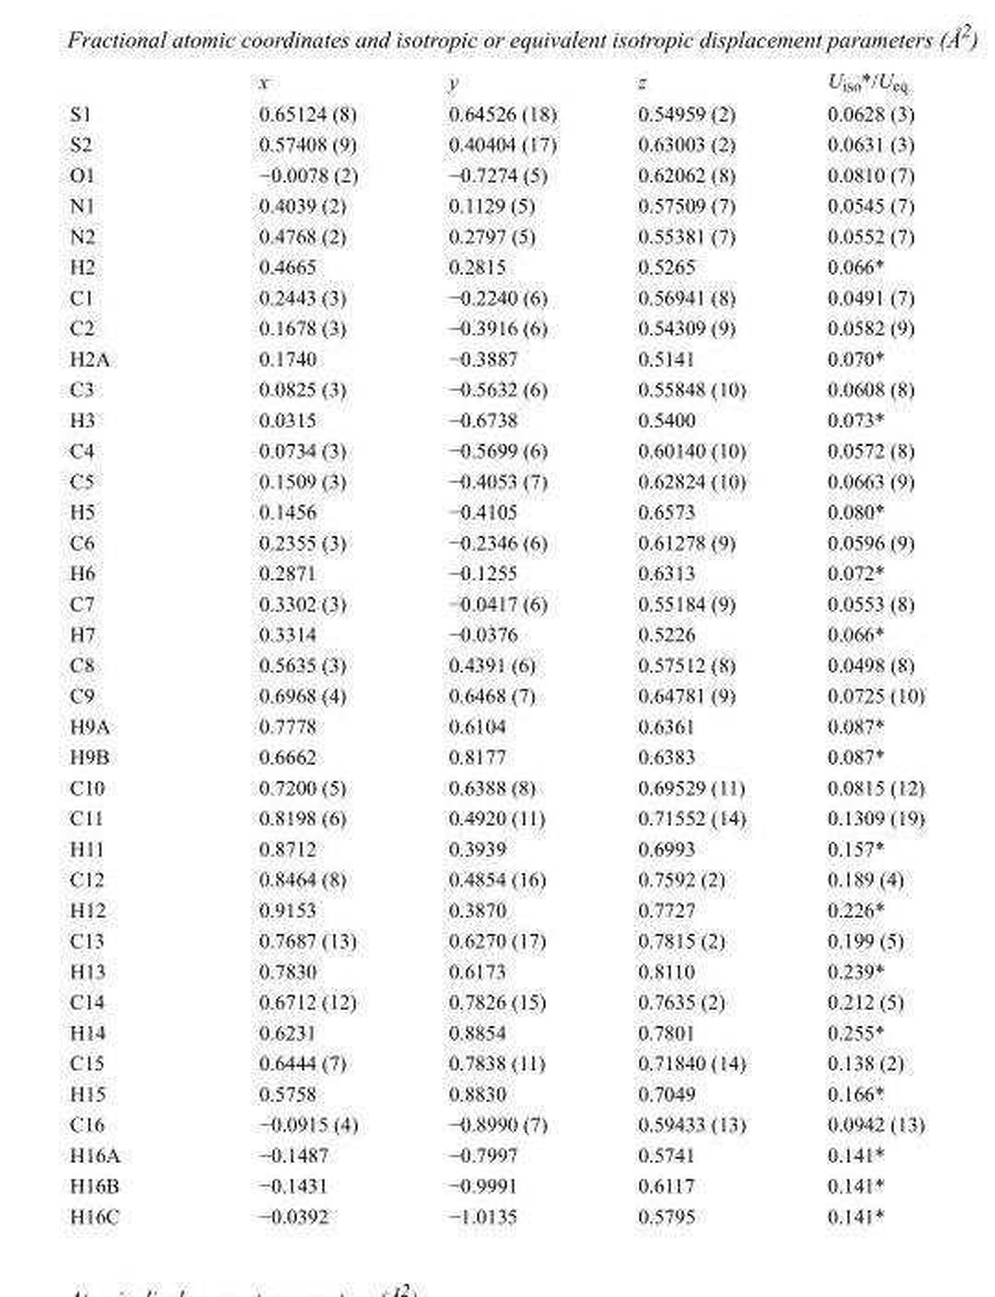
<table><thead><tr><td></td><td>x</td><td>y</td><td>z</td><td>U<sub>iso</sub>*/U<sub>eq</sub></td></tr></thead><tbody><tr><td>S1</td><td>0.65124 (8)</td><td>0.64526 (18)</td><td>0.54959 (2)</td><td>0.0628 (3)</td></tr><tr><td>S2</td><td>0.57408 (9)</td><td>0.40404 (17)</td><td>0.63003 (2)</td><td>0.0631 (3)</td></tr><tr><td>O1</td><td>−0.0078 (2)</td><td>−0.7274 (5)</td><td>0.62062 (8)</td><td>0.0810 (7)</td></tr><tr><td>N1</td><td>0.4039 (2)</td><td>0.1129 (5)</td><td>0.57509 (7)</td><td>0.0545 (7)</td></tr><tr><td>N2</td><td>0.4768 (2)</td><td>0.2797 (5)</td><td>0.55381 (7)</td><td>0.0552 (7)</td></tr><tr><td>H2</td><td>0.4665</td><td>0.2815</td><td>0.5265</td><td>0.066*</td></tr><tr><td>C1</td><td>0.2443 (3)</td><td>−0.2240 (6)</td><td>0.56941 (8)</td><td>0.0491 (7)</td></tr><tr><td>C2</td><td>0.1678 (3)</td><td>−0.3916 (6)</td><td>0.54309 (9)</td><td>0.0582 (9)</td></tr><tr><td>H2A</td><td>0.1740</td><td>−0.3887</td><td>0.5141</td><td>0.070*</td></tr><tr><td>C3</td><td>0.0825 (3)</td><td>−0.5632 (6)</td><td>0.55848 (10)</td><td>0.0608 (8)</td></tr><tr><td>H3</td><td>0.0315</td><td>−0.6738</td><td>0.5400</td><td>0.073*</td></tr><tr><td>C4</td><td>0.0734 (3)</td><td>−0.5699 (6)</td><td>0.60140 (10)</td><td>0.0572 (8)</td></tr><tr><td>C5</td><td>0.1509 (3)</td><td>−0.4053 (7)</td><td>0.62824 (10)</td><td>0.0663 (9)</td></tr><tr><td>H5</td><td>0.1456</td><td>−0.4105</td><td>0.6573</td><td>0.080*</td></tr><tr><td>C6</td><td>0.2355 (3)</td><td>−0.2346 (6)</td><td>0.61278 (9)</td><td>0.0596 (9)</td></tr><tr><td>H6</td><td>0.2871</td><td>−0.1255</td><td>0.6313</td><td>0.072*</td></tr><tr><td>C7</td><td>0.3302 (3)</td><td>−0.0417 (6)</td><td>0.55184 (9)</td><td>0.0553 (8)</td></tr><tr><td>H7</td><td>0.3314</td><td>−0.0376</td><td>0.5226</td><td>0.066*</td></tr><tr><td>C8</td><td>0.5635 (3)</td><td>0.4391 (6)</td><td>0.57512 (8)</td><td>0.0498 (8)</td></tr><tr><td>C9</td><td>0.6968 (4)</td><td>0.6468 (7)</td><td>0.64781 (9)</td><td>0.0725 (10)</td></tr><tr><td>H9A</td><td>0.7778</td><td>0.6104</td><td>0.6361</td><td>0.087*</td></tr><tr><td>H9B</td><td>0.6662</td><td>0.8177</td><td>0.6383</td><td>0.087*</td></tr><tr><td>C10</td><td>0.7200 (5)</td><td>0.6388 (8)</td><td>0.69529 (11)</td><td>0.0815 (12)</td></tr><tr><td>C11</td><td>0.8198 (6)</td><td>0.4920 (11)</td><td>0.71552 (14)</td><td>0.1309 (19)</td></tr><tr><td>H11</td><td>0.8712</td><td>0.3939</td><td>0.6993</td><td>0.157*</td></tr><tr><td>C12</td><td>0.8464 (8)</td><td>0.4854 (16)</td><td>0.7592 (2)</td><td>0.189 (4)</td></tr><tr><td>H12</td><td>0.9153</td><td>0.3870</td><td>0.7727</td><td>0.226*</td></tr><tr><td>C13</td><td>0.7687 (13)</td><td>0.6270 (17)</td><td>0.7815 (2)</td><td>0.199 (5)</td></tr><tr><td>H13</td><td>0.7830</td><td>0.6173</td><td>0.8110</td><td>0.239*</td></tr><tr><td>C14</td><td>0.6712 (12)</td><td>0.7826 (15)</td><td>0.7635 (2)</td><td>0.212 (5)</td></tr><tr><td>H14</td><td>0.6231</td><td>0.8854</td><td>0.7801</td><td>0.255*</td></tr><tr><td>C15</td><td>0.6444 (7)</td><td>0.7838 (11)</td><td>0.71840 (14)</td><td>0.138 (2)</td></tr><tr><td>H15</td><td>0.5758</td><td>0.8830</td><td>0.7049</td><td>0.166*</td></tr><tr><td>C16</td><td>−0.0915 (4)</td><td>−0.8990 (7)</td><td>0.59433 (13)</td><td>0.0942 (13)</td></tr><tr><td>H16A</td><td>−0.1487</td><td>−0.7997</td><td>0.5741</td><td>0.141*</td></tr><tr><td>H16B</td><td>−0.1431</td><td>−0.9991</td><td>0.6117</td><td>0.141*</td></tr><tr><td>H16C</td><td>−0.0392</td><td>−1.0135</td><td>0.5795</td><td>0.141*</td></tr></tbody></table>